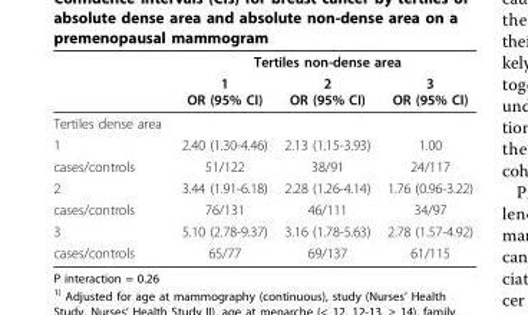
<table><thead><tr><td rowspan="2"></td><td colspan="3">Tertiles non-dense area</td></tr><tr><td>1 OR (95% CI)</td><td>2 OR (95% CI)</td><td>3 OR (95% CI)</td></tr></thead><tbody><tr><td colspan="4">Tertiles dense area</td></tr><tr><td>1</td><td>2.40 (1.30-4.46)</td><td>2.13 (1.15-3.93)</td><td>1.00</td></tr><tr><td>cases/controls</td><td>51/122</td><td>38/91</td><td>24/117</td></tr><tr><td>2</td><td>3.44 (1.91-6.18)</td><td>2.28 (1.26-4.14)</td><td>1.76 (0.96-3.22)</td></tr><tr><td>cases/controls</td><td>76/131</td><td>46/111</td><td>34/97</td></tr><tr><td>3</td><td>5.10 (2.78-9.37)</td><td>3.16 (1.78-5.63)</td><td>2.78 (1.57-4.92)</td></tr><tr><td>cases/controls</td><td>65/77</td><td>69/137</td><td>61/115</td></tr></tbody></table>